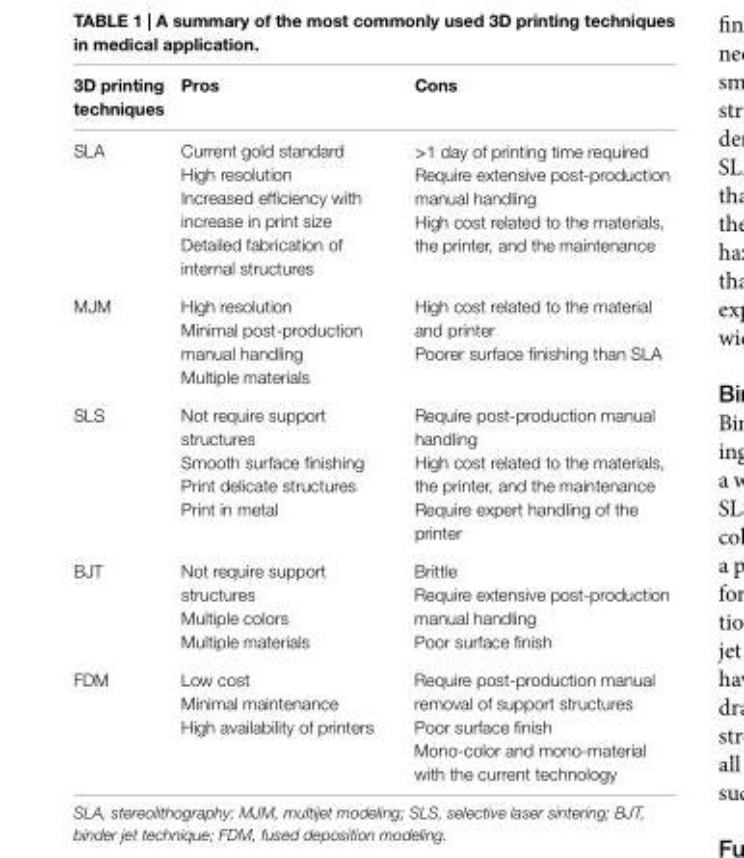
<table><thead><tr><td>3D printing techniques</td><td>Pros</td><td>Cons</td></tr></thead><tbody><tr><td>SLA</td><td>Current gold standard High resolution Increased efficiency with increase in print size Detailed fabrication of internal structures</td><td>&gt;1 day of printing time required Require extensive post-production manual handling High cost related to the materials, the printer, and the maintenance</td></tr><tr><td>MJM</td><td>High resolution Minimal post-production manual handling Multiple materials</td><td>High cost related to the material and printer Poorer surface finishing than SLA</td></tr><tr><td>SLS</td><td>Not require support structures Smooth surface finishing Print delicate structures Print in metal</td><td>Require post-production manual handling High cost related to the materials, the printer, and the maintenance Require expert handling of the printer</td></tr><tr><td>BJT</td><td>Not require support structures Multiple colors Multiple materials</td><td>Brittle Require extensive post-production manual handling Poor surface finish</td></tr><tr><td>FDM</td><td>Low cost Minimal maintenance High availability of printers</td><td>Require post-production manual removal of support structures Poor surface finish Mono-color and mono-material with the current technology</td></tr></tbody></table>